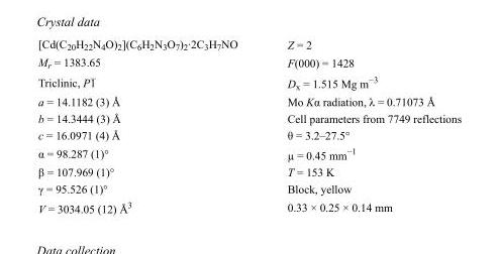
<table><tbody><tr><td>[Cd(C<sub>20</sub>H<sub>22</sub>N<sub>4</sub>O)<sub>2</sub>](C<sub>6</sub>H<sub>2</sub>N<sub>3</sub>O<sub>7</sub>)<sub>2</sub>·2C<sub>3</sub>H<sub>7</sub>NO</td><td>Z = 2</td></tr><tr><td>M<sub>r</sub> = 1383.65</td><td>F(000) = 1428</td></tr><tr><td>Triclinic, P1</td><td>D<sub>x</sub> = 1.515 Mg m<sup>−3</sup></td></tr><tr><td>a = 14.1182 (3) Å</td><td>Mo Kα radiation, λ = 0.71073 Å</td></tr><tr><td>b = 14.3444 (3) Å</td><td>Cell parameters from 7749 reflections</td></tr><tr><td>c = 16.0971 (4) Å</td><td>θ = 3.2–27.5°</td></tr><tr><td>α = 98.287 (1)°</td><td>µ = 0.45 mm<sup>−1</sup></td></tr><tr><td>β = 107.969 (1)°</td><td>T = 153 K</td></tr><tr><td>γ = 95.526 (1)°</td><td>Block, yellow</td></tr><tr><td>V = 3034.05 (12) Å<sup>3</sup></td><td>0.33 × 0.25 × 0.14 mm</td></tr></tbody></table>